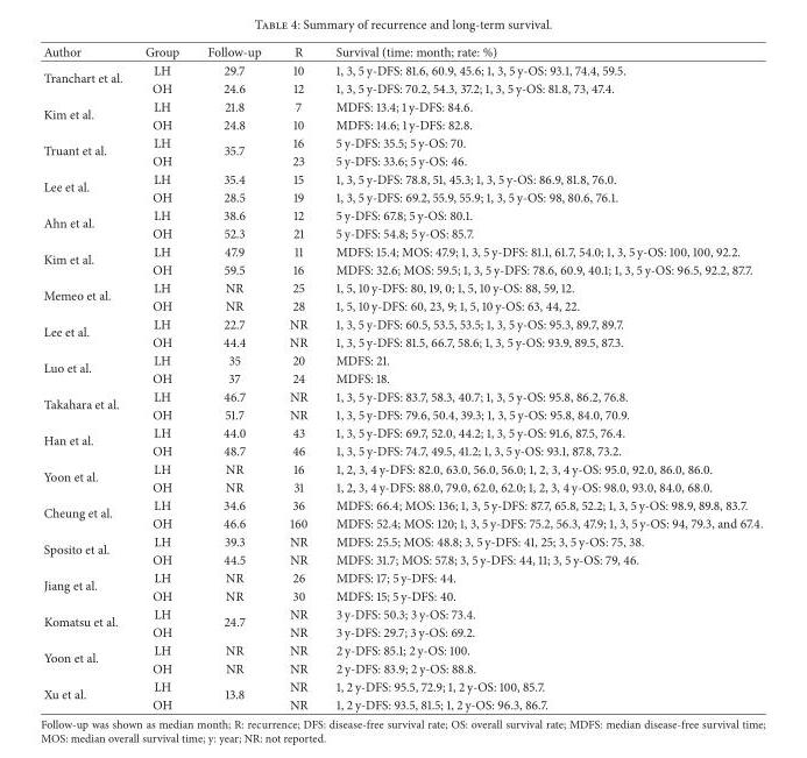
<table><thead><tr><td>Author</td><td>Group</td><td>Follow-up</td><td>R</td><td>Survival (time: month; rate: %)</td></tr></thead><tbody><tr><td rowspan="2">Tranchart et al.</td><td>LH</td><td>29.7</td><td>10</td><td>1, 3, 5 y-DFS: 81.6, 60.9, 45.6; 1, 3, 5 y-OS: 93.1, 74.4, 59.5.</td></tr><tr><td>OH</td><td>24.6</td><td>12</td><td>1, 3, 5 y-DFS: 70.2, 54.3, 37.2; 1, 3, 5 y-OS: 81.8, 73, 47.4.</td></tr><tr><td rowspan="2">Kim et al.</td><td>LH</td><td>21.8</td><td>7</td><td>MDFS: 13.4; 1 y-DFS: 84.6.</td></tr><tr><td>OH</td><td>24.8</td><td>10</td><td>MDFS: 14.6; 1 y-DFS: 82.8.</td></tr><tr><td rowspan="2">Truant et al.</td><td>LH</td><td rowspan="2">35.7</td><td>16</td><td>5 y-DFS: 35.5; 5 y-OS: 70.</td></tr><tr><td>OH</td><td>23</td><td>5 y-DFS: 33.6; 5 y-OS: 46.</td></tr><tr><td rowspan="2">Lee et al.</td><td>LH</td><td>35.4</td><td>15</td><td>1, 3, 5 y-DFS: 78.8, 51, 45.3; 1, 3, 5 y-OS: 86.9, 81.8, 76.0.</td></tr><tr><td>OH</td><td>28.5</td><td>19</td><td>1, 3, 5 y-DFS: 69.2, 55.9, 55.9; 1, 3, 5 y-OS: 98, 80.6, 76.1.</td></tr><tr><td rowspan="2">Ahn et al.</td><td>LH</td><td>38.6</td><td>12</td><td>5 y-DFS: 67.8; 5 y-OS: 80.1.</td></tr><tr><td>OH</td><td>52.3</td><td>21</td><td>5 y-DFS: 54.8; 5 y-OS: 85.7.</td></tr><tr><td rowspan="2">Kim et al.</td><td>LH</td><td>47.9</td><td>11</td><td>MDFS: 15.4; MOS: 47.9; 1, 3, 5 y-DFS: 81.1, 61.7, 54.0; 1, 3, 5 y-OS: 100, 100, 92.2.</td></tr><tr><td>OH</td><td>59.5</td><td>16</td><td>MDFS: 32.6; MOS: 59.5; 1, 3, 5 y-DFS: 78.6, 60.9, 40.1; 1, 3, 5 y-OS: 96.5, 92.2, 87.7.</td></tr><tr><td rowspan="2">Memeo et al.</td><td>LH</td><td>NR</td><td>25</td><td>1, 5, 10 y-DFS: 80, 19, 0; 1, 5, 10 y-OS: 88, 59, 12.</td></tr><tr><td>OH</td><td>NR</td><td>28</td><td>1, 5, 10 y-DFS: 60, 23, 9; 1, 5, 10 y-OS: 63, 44, 22.</td></tr><tr><td rowspan="2">Lee et al.</td><td>LH</td><td>22.7</td><td>NR</td><td>1, 3, 5 y-DFS: 60.5, 53.5, 53.5; 1, 3, 5 y-OS: 95.3, 89.7, 89.7.</td></tr><tr><td>OH</td><td>44.4</td><td>NR</td><td>1, 3, 5 y-DFS: 81.5, 66.7, 58.6; 1, 3, 5 y-OS: 93.9, 89.5, 87.3.</td></tr><tr><td rowspan="2">Luo et al.</td><td>LH</td><td>35</td><td>20</td><td>MDFS: 21.</td></tr><tr><td>OH</td><td>37</td><td>24</td><td>MDFS: 18.</td></tr><tr><td rowspan="2">Takahara et al.</td><td>LH</td><td>46.7</td><td>NR</td><td>1, 3, 5 y-DFS: 83.7, 58.3, 40.7; 1, 3, 5 y-OS: 95.8, 86.2, 76.8.</td></tr><tr><td>OH</td><td>51.7</td><td>NR</td><td>1, 3, 5 y-DFS: 79.6, 50.4, 39.3; 1, 3, 5 y-OS: 95.8, 84.0, 70.9.</td></tr><tr><td rowspan="2">Han et al.</td><td>LH</td><td>44.0</td><td>43</td><td>1, 3, 5 y-DFS: 69.7, 52.0, 44.2; 1, 3, 5 y-OS: 91.6, 87.5, 76.4.</td></tr><tr><td>OH</td><td>48.7</td><td>46</td><td>1, 3, 5 y-DFS: 74.7, 49.5, 41.2; 1, 3, 5 y-OS: 93.1, 87.8, 73.2.</td></tr><tr><td rowspan="2">Yoon et al.</td><td>LH</td><td>NR</td><td>16</td><td>1, 2, 3, 4 y-DFS: 82.0, 63.0, 56.0, 56.0; 1, 2, 3, 4 y-OS: 95.0, 92.0, 86.0, 86.0.</td></tr><tr><td>OH</td><td>NR</td><td>31</td><td>1, 2, 3, 4 y-DFS: 88.0, 79.0, 62.0, 62.0; 1, 2, 3, 4 y-OS: 98.0, 93.0, 84.0, 68.0.</td></tr><tr><td rowspan="2">Cheung et al.</td><td>LH</td><td>34.6</td><td>36</td><td>MDFS: 66.4; MOS: 136; 1, 3, 5 y-DFS: 87.7, 65.8, 52.2; 1, 3, 5 y-OS: 98.9, 89.8, 83.7.</td></tr><tr><td>OH</td><td>46.6</td><td>160</td><td>MDFS: 52.4; MOS: 120; 1, 3, 5 y-DFS: 75.2, 56.3, 47.9; 1, 3, 5 y-OS: 94, 79.3, and 67.4.</td></tr><tr><td rowspan="2">Sposito et al.</td><td>LH</td><td>39.3</td><td>NR</td><td>MDFS: 25.5; MOS: 48.8; 3, 5 y-DFS: 41, 25; 3, 5 y-OS: 75, 38.</td></tr><tr><td>OH</td><td>44.5</td><td>NR</td><td>MDFS: 31.7; MOS: 57.8; 3, 5 y-DFS: 44, 11; 3, 5 y-OS: 79, 46.</td></tr><tr><td rowspan="2">Jiang et al.</td><td>LH</td><td>NR</td><td>26</td><td>MDFS: 17; 5 y-DFS: 44.</td></tr><tr><td>OH</td><td>NR</td><td>30</td><td>MDFS: 15; 5 y-DFS: 40.</td></tr><tr><td rowspan="2">Komatsu et al.</td><td>LH</td><td rowspan="2">24.7</td><td>NR</td><td>3 y-DFS: 50.3; 3 y-OS: 73.4.</td></tr><tr><td>OH</td><td>NR</td><td>3 y-DFS: 29.7; 3 y-OS: 69.2.</td></tr><tr><td rowspan="2">Yoon et al.</td><td>LH</td><td>NR</td><td>NR</td><td>2 y-DFS: 85.1; 2 y-OS: 100.</td></tr><tr><td>OH</td><td>NR</td><td>NR</td><td>2 y-DFS: 83.9; 2 y-OS: 88.8.</td></tr><tr><td rowspan="2">Xu et al.</td><td>LH</td><td rowspan="2">13.8</td><td>NR</td><td>1, 2 y-DFS: 95.5, 72.9; 1, 2 y-OS: 100, 85.7.</td></tr><tr><td>OH</td><td>NR</td><td>1, 2 y-DFS: 93.5, 81.5; 1, 2 y-OS: 96.3, 86.7.</td></tr></tbody></table>